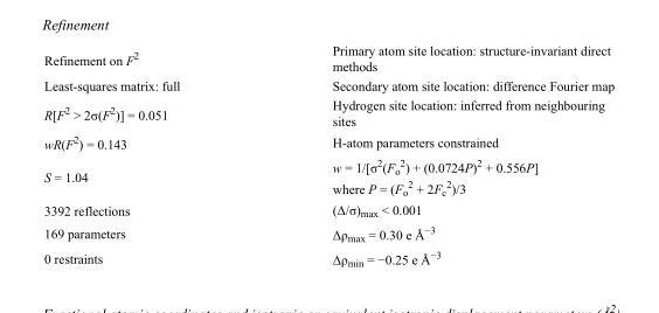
<table><tbody><tr><td>Refinement on F<sup>2</sup></td><td>Primary atom site location: structure-invariant direct methods</td></tr><tr><td>Least-squares matrix: full</td><td>Secondary atom site location: difference Fourier map</td></tr><tr><td>R[F<sup>2</sup> &gt; 2σ(F<sup>2</sup>)] = 0.051</td><td>Hydrogen site location: inferred from neighbouring sites</td></tr><tr><td>wR(F<sup>2</sup>) = 0.143</td><td>H-atom parameters constrained</td></tr><tr><td>S = 1.04</td><td>w = 1/[σ<sup>2</sup>(F<sub>o</sub> <sup>2</sup>) + (0.0724P)<sup>2</sup> + 0.556P] where P = (F<sub>o</sub> <sup>2</sup> + 2F<sub>c</sub> <sup>2</sup>)/3</td></tr><tr><td>3392 reflections</td><td>(Δ/σ)<sub>max</sub> &lt; 0.001</td></tr><tr><td>169 parameters</td><td>Δρ<sub>max</sub> = 0.30 e Å<sup>−3</sup></td></tr><tr><td>0 restraints</td><td>Δρ<sub>min</sub> = −0.25 e Å<sup>−3</sup></td></tr></tbody></table>